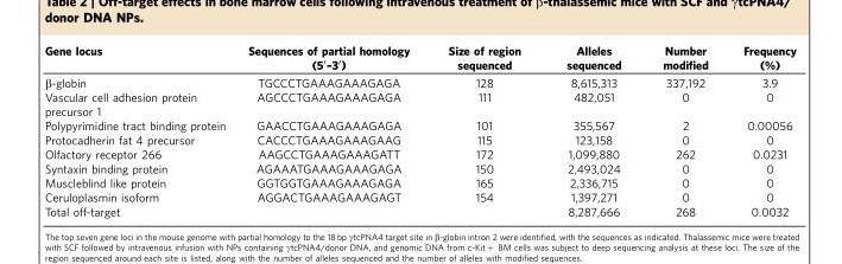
<table><thead><tr><td>Gene locus</td><td>Sequences of partial homology (5′–3′)</td><td>Size of region sequenced</td><td>Alleles sequenced</td><td>Number modified</td><td>Frequency (%)</td></tr></thead><tbody><tr><td>β-globin</td><td>TGCCCTGAAAGAAAGAGA</td><td>128</td><td>8,615,313</td><td>337,192</td><td>3.9</td></tr><tr><td>Vascular cell adhesion protein precursor 1</td><td>AGCCCTGAAAGAAAGAGA</td><td>111</td><td>482,051</td><td>0</td><td>0</td></tr><tr><td>Polypyrimidine tract binding protein</td><td>GAACCTGAAAGAAAGAGA</td><td>101</td><td>355,567</td><td>2</td><td>0.00056</td></tr><tr><td>Protocadherin fat 4 precursor</td><td>CACCCTGAAAGAAAGAAG</td><td>115</td><td>123,158</td><td>0</td><td>0</td></tr><tr><td>Olfactory receptor 266</td><td>AAGCCTGAAAGAAAGATT</td><td>172</td><td>1,099,880</td><td>262</td><td>0.0231</td></tr><tr><td>Syntaxin binding protein</td><td>AGAAATGAAAGAAAGAGA</td><td>150</td><td>2,493,024</td><td>0</td><td>0</td></tr><tr><td>Muscleblind like protein</td><td>GGTGGTGAAAGAAAGAGA</td><td>165</td><td>2,336,715</td><td>0</td><td>0</td></tr><tr><td>Ceruloplasmin isoform</td><td>AGGACTGAAAGAAAGAGT</td><td>154</td><td>1,397,271</td><td>0</td><td>0</td></tr><tr><td>Total off-target</td><td></td><td></td><td>8,287,666</td><td>268</td><td>0.0032</td></tr></tbody></table>